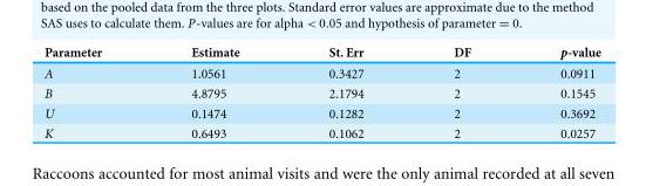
<table><thead><tr><td>Parameter</td><td>Estimate</td><td>St. Err</td><td>DF</td><td>p-value</td></tr></thead><tbody><tr><td>A</td><td>1.0561</td><td>0.3427</td><td>2</td><td>0.0911</td></tr><tr><td>B</td><td>4.8795</td><td>2.1794</td><td>2</td><td>0.1545</td></tr><tr><td>U</td><td>0.1474</td><td>0.1282</td><td>2</td><td>0.3692</td></tr><tr><td>K</td><td>0.6493</td><td>0.1062</td><td>2</td><td>0.0257</td></tr></tbody></table>